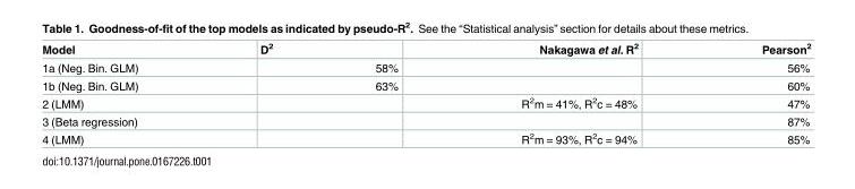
<table><thead><tr><td>Model</td><td>D<sup>2</sup></td><td>Nakagawa et al. R<sup>2</sup></td><td>Pearson<sup>2</sup></td></tr></thead><tbody><tr><td>1a (Neg. Bin. GLM)</td><td>58%</td><td></td><td>56%</td></tr><tr><td>1b (Neg. Bin. GLM)</td><td>63%</td><td></td><td>60%</td></tr><tr><td>2 (LMM)</td><td></td><td>R<sup>2</sup>m = 41%, R<sup>2</sup>c = 48%</td><td>47%</td></tr><tr><td>3 (Beta regression)</td><td></td><td></td><td>87%</td></tr><tr><td>4 (LMM)</td><td></td><td>R<sup>2</sup>m = 93%, R<sup>2</sup>c = 94%</td><td>85%</td></tr></tbody></table>